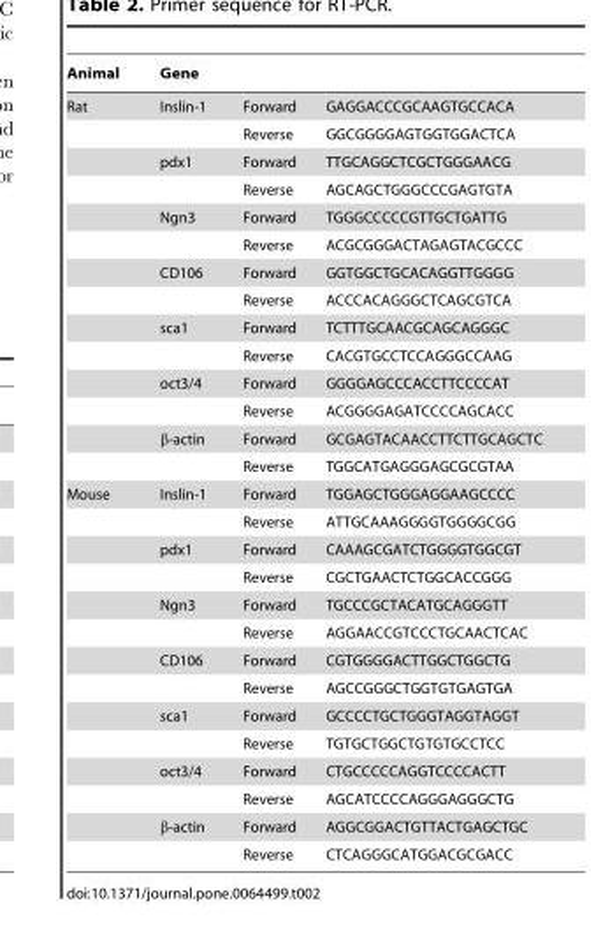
<table><thead><tr><td>Animal</td><td>Gene</td><td></td><td></td></tr></thead><tbody><tr><td rowspan="14">Rat</td><td>Inslin-1</td><td>Forward</td><td>GAGGACCCGCAAGTGCCACA</td></tr><tr><td></td><td>Reverse</td><td>GGCGGGGAGTGGTGGACTCA</td></tr><tr><td>pdx1</td><td>Forward</td><td>TTGCAGGCTCGCTGGGAACG</td></tr><tr><td></td><td>Reverse</td><td>AGCAGCTGGGCCCGAGTGTA</td></tr><tr><td>Ngn3</td><td>Forward</td><td>TGGGCCCCCGTTGCTGATTG</td></tr><tr><td></td><td>Reverse</td><td>ACGCGGGACTAGAGTACGCCC</td></tr><tr><td>CD106</td><td>Forward</td><td>GGTGGCTGCACAGGTTGGGG</td></tr><tr><td></td><td>Reverse</td><td>ACCCACAGGGCTCAGCGTCA</td></tr><tr><td>sca1</td><td>Forward</td><td>TCTTTGCAACGCAGCAGGGC</td></tr><tr><td></td><td>Reverse</td><td>CACGTGCCTCCAGGGCCAAG</td></tr><tr><td>oct3/4</td><td>Forward</td><td>GGGGAGCCCACCTTCCCCAT</td></tr><tr><td></td><td>Reverse</td><td>ACGGGGAGATCCCCAGCACC</td></tr><tr><td>β-actin</td><td>Forward</td><td>GCGAGTACAACCTTCTTGCAGCTC</td></tr><tr><td></td><td>Reverse</td><td>TGGCATGAGGGAGCGCGTAA</td></tr><tr><td rowspan="14">Mouse</td><td>Inslin-1</td><td>Forward</td><td>TGGAGCTGGGAGGAAGCCCC</td></tr><tr><td></td><td>Reverse</td><td>ATTGCAAAGGGGTGGGGCGG</td></tr><tr><td>pdx1</td><td>Forward</td><td>CAAAGCGATCTGGGGTGGCGT</td></tr><tr><td></td><td>Reverse</td><td>CGCTGAACTCTGGCACCGGG</td></tr><tr><td>Ngn3</td><td>Forward</td><td>TGCCCGCTACATGCAGGGTT</td></tr><tr><td></td><td>Reverse</td><td>AGGAACCGTCCCTGCAACTCAC</td></tr><tr><td>CD106</td><td>Forward</td><td>CGTGGGGACTTGGCTGGCTG</td></tr><tr><td></td><td>Reverse</td><td>AGCCGGGCTGGTGTGAGTGA</td></tr><tr><td>sca1</td><td>Forward</td><td>GCCCCTGCTGGGTAGGTAGGT</td></tr><tr><td></td><td>Reverse</td><td>TGTGCTGGCTGTGTGCCTCC</td></tr><tr><td>oct3/4</td><td>Forward</td><td>CTGCCCCCAGGTCCCCACTT</td></tr><tr><td></td><td>Reverse</td><td>AGCATCCCCAGGGAGGGCTG</td></tr><tr><td>β-actin</td><td>Forward</td><td>AGGCGGACTGTTACTGAGCTGC</td></tr><tr><td></td><td>Reverse</td><td>CTCAGGGCATGGACGCGACC</td></tr></tbody></table>